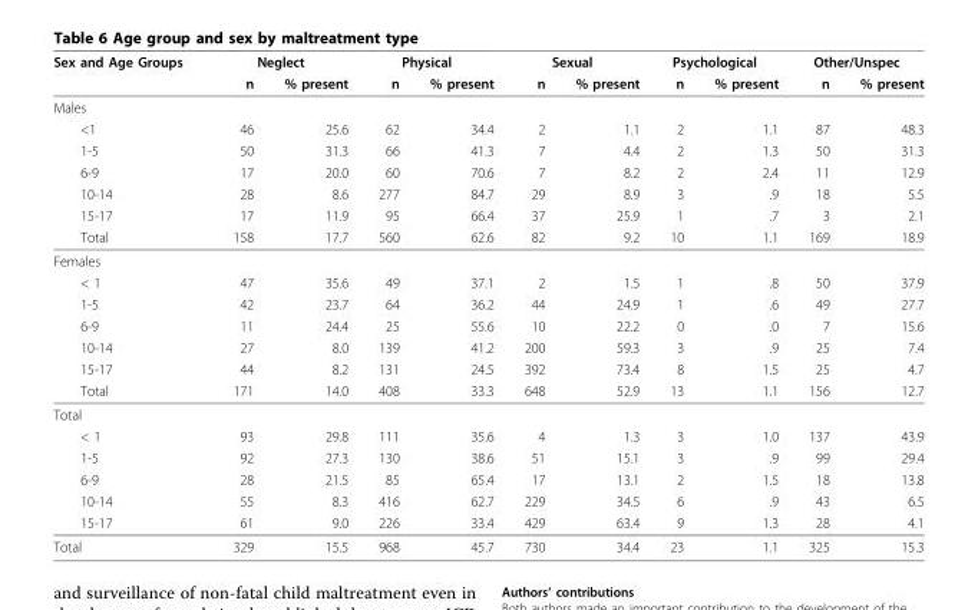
<table><thead><tr><td rowspan="2">Sex and Age Groups</td><td colspan="2">Neglect</td><td colspan="2">Physical</td><td colspan="2">Sexual</td><td colspan="2">Psychological</td><td colspan="2">Other/Unspec</td></tr><tr><td>n</td><td>% present</td><td>n</td><td>% present</td><td>n</td><td>% present</td><td>n</td><td>% present</td><td>n</td><td>% present</td></tr></thead><tbody><tr><td colspan="11">Males</td></tr><tr><td>&lt;1</td><td>46</td><td>25.6</td><td>62</td><td>34.4</td><td>2</td><td>1.1</td><td>2</td><td>1.1</td><td>87</td><td>48.3</td></tr><tr><td>1-5</td><td>50</td><td>31.3</td><td>66</td><td>41.3</td><td>7</td><td>4.4</td><td>2</td><td>1.3</td><td>50</td><td>31.3</td></tr><tr><td>6-9</td><td>17</td><td>20.0</td><td>60</td><td>70.6</td><td>7</td><td>8.2</td><td>2</td><td>2.4</td><td>11</td><td>12.9</td></tr><tr><td>10-14</td><td>28</td><td>8.6</td><td>277</td><td>84.7</td><td>29</td><td>8.9</td><td>3</td><td>.9</td><td>18</td><td>5.5</td></tr><tr><td>15-17</td><td>17</td><td>11.9</td><td>95</td><td>66.4</td><td>37</td><td>25.9</td><td>1</td><td>.7</td><td>3</td><td>2.1</td></tr><tr><td>Total</td><td>158</td><td>17.7</td><td>560</td><td>62.6</td><td>82</td><td>9.2</td><td>10</td><td>1.1</td><td>169</td><td>18.9</td></tr><tr><td colspan="11">Females</td></tr><tr><td>&lt; 1</td><td>47</td><td>35.6</td><td>49</td><td>37.1</td><td>2</td><td>1.5</td><td>1</td><td>.8</td><td>50</td><td>37.9</td></tr><tr><td>1-5</td><td>42</td><td>23.7</td><td>64</td><td>36.2</td><td>44</td><td>24.9</td><td>1</td><td>.6</td><td>49</td><td>27.7</td></tr><tr><td>6-9</td><td>11</td><td>24.4</td><td>25</td><td>55.6</td><td>10</td><td>22.2</td><td>0</td><td>.0</td><td>7</td><td>15.6</td></tr><tr><td>10-14</td><td>27</td><td>8.0</td><td>139</td><td>41.2</td><td>200</td><td>59.3</td><td>3</td><td>.9</td><td>25</td><td>7.4</td></tr><tr><td>15-17</td><td>44</td><td>8.2</td><td>131</td><td>24.5</td><td>392</td><td>73.4</td><td>8</td><td>1.5</td><td>25</td><td>4.7</td></tr><tr><td>Total</td><td>171</td><td>14.0</td><td>408</td><td>33.3</td><td>648</td><td>52.9</td><td>13</td><td>1.1</td><td>156</td><td>12.7</td></tr><tr><td colspan="11">Total</td></tr><tr><td>&lt; 1</td><td>93</td><td>29.8</td><td>111</td><td>35.6</td><td>4</td><td>1.3</td><td>3</td><td>1.0</td><td>137</td><td>43.9</td></tr><tr><td>1-5</td><td>92</td><td>27.3</td><td>130</td><td>38.6</td><td>51</td><td>15.1</td><td>3</td><td>.9</td><td>99</td><td>29.4</td></tr><tr><td>6-9</td><td>28</td><td>21.5</td><td>85</td><td>65.4</td><td>17</td><td>13.1</td><td>2</td><td>1.5</td><td>18</td><td>13.8</td></tr><tr><td>10-14</td><td>55</td><td>8.3</td><td>416</td><td>62.7</td><td>229</td><td>34.5</td><td>6</td><td>.9</td><td>43</td><td>6.5</td></tr><tr><td>15-17</td><td>61</td><td>9.0</td><td>226</td><td>33.4</td><td>429</td><td>63.4</td><td>9</td><td>1.3</td><td>28</td><td>4.1</td></tr><tr><td>Total</td><td>329</td><td>15.5</td><td>968</td><td>45.7</td><td>730</td><td>34.4</td><td>23</td><td>1.1</td><td>325</td><td>15.3</td></tr></tbody></table>